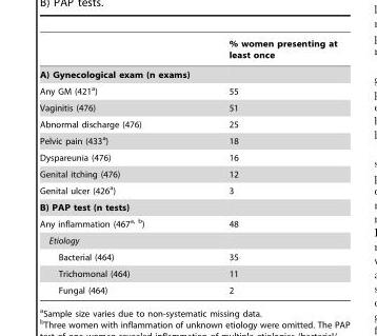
<table><thead><tr><td></td><td>% women presenting at least once</td></tr></thead><tbody><tr><td colspan="2">A) Gynecological exam (n exams)</td></tr><tr><td>Any GM (421<sup>a</sup>)</td><td>55</td></tr><tr><td>Vaginitis (476)</td><td>51</td></tr><tr><td>Abnormal discharge (476)</td><td>25</td></tr><tr><td>Pelvic pain (433<sup>a</sup>)</td><td>18</td></tr><tr><td>Dyspareunia (476)</td><td>16</td></tr><tr><td>Genital itching (476)</td><td>12</td></tr><tr><td>Genital ulcer (426<sup>a</sup>)</td><td>3</td></tr><tr><td colspan="2">B) PAP test (n tests)</td></tr><tr><td>Any inflammation (467a, b)</td><td>48</td></tr><tr><td colspan="2">Etiology</td></tr><tr><td>Bacterial (464)</td><td>35</td></tr><tr><td>Trichomonal (464)</td><td>11</td></tr><tr><td>Fungal (464)</td><td>2</td></tr></tbody></table>